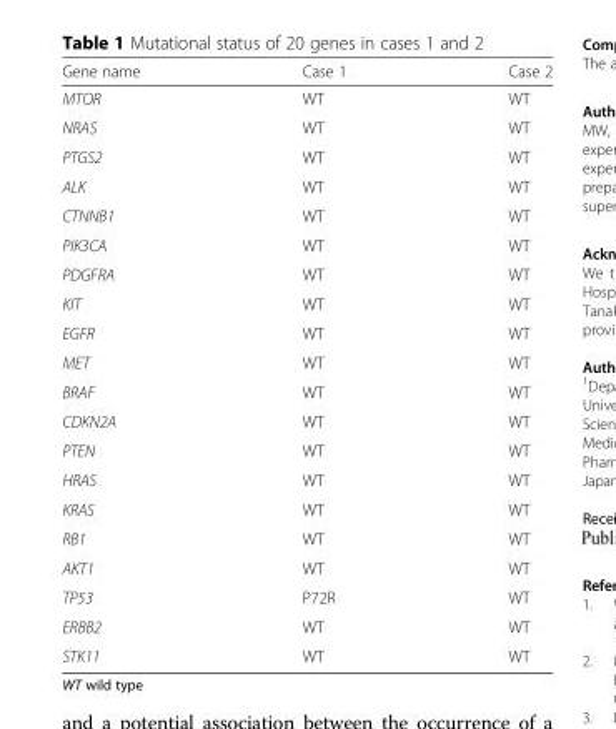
<table><thead><tr><td>Gene name</td><td>Case 1</td><td>Case 2</td></tr></thead><tbody><tr><td>MTOR</td><td>WT</td><td>WT</td></tr><tr><td>NRAS</td><td>WT</td><td>WT</td></tr><tr><td>PTGS2</td><td>WT</td><td>WT</td></tr><tr><td>ALK</td><td>WT</td><td>WT</td></tr><tr><td>CTNNB1</td><td>WT</td><td>WT</td></tr><tr><td>PIK3CA</td><td>WT</td><td>WT</td></tr><tr><td>PDGFRA</td><td>WT</td><td>WT</td></tr><tr><td>KIT</td><td>WT</td><td>WT</td></tr><tr><td>EGFR</td><td>WT</td><td>WT</td></tr><tr><td>MET</td><td>WT</td><td>WT</td></tr><tr><td>BRAF</td><td>WT</td><td>WT</td></tr><tr><td>CDKN2A</td><td>WT</td><td>WT</td></tr><tr><td>PTEN</td><td>WT</td><td>WT</td></tr><tr><td>HRAS</td><td>WT</td><td>WT</td></tr><tr><td>KRAS</td><td>WT</td><td>WT</td></tr><tr><td>RB1</td><td>WT</td><td>WT</td></tr><tr><td>AKT1</td><td>WT</td><td>WT</td></tr><tr><td>TP53</td><td>P72R</td><td>WT</td></tr><tr><td>ERBB2</td><td>WT</td><td>WT</td></tr><tr><td>STK11</td><td>WT</td><td>WT</td></tr></tbody></table>